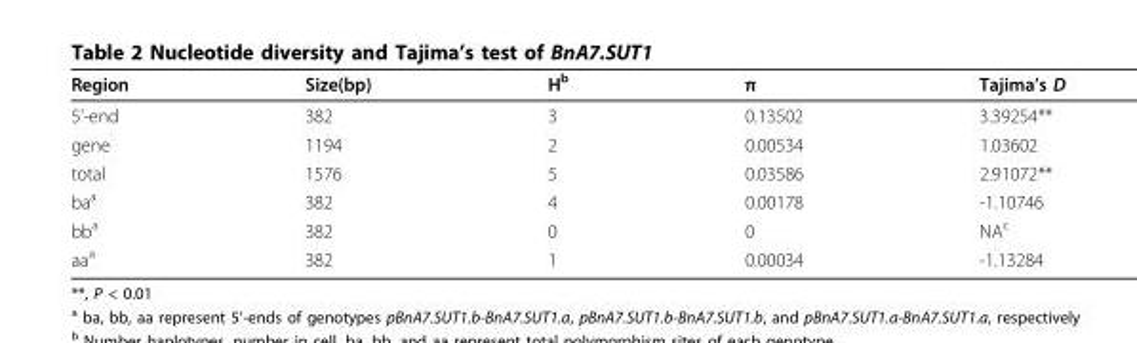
<table><thead><tr><td>Region</td><td>Size(bp)</td><td>H<sup>b</sup></td><td>π</td><td>Tajima’s D</td></tr></thead><tbody><tr><td>5’-end</td><td>382</td><td>3</td><td>0.13502</td><td>3.39254**</td></tr><tr><td>gene</td><td>1194</td><td>2</td><td>0.00534</td><td>1.03602</td></tr><tr><td>total</td><td>1576</td><td>5</td><td>0.03586</td><td>2.91072**</td></tr><tr><td>ba<sup>a</sup></td><td>382</td><td>4</td><td>0.00178</td><td>-1.10746</td></tr><tr><td>bb<sup>a</sup></td><td>382</td><td>0</td><td>0</td><td>NA<sup>c</sup></td></tr><tr><td>aa<sup>a</sup></td><td>382</td><td>1</td><td>0.00034</td><td>-1.13284</td></tr></tbody></table>